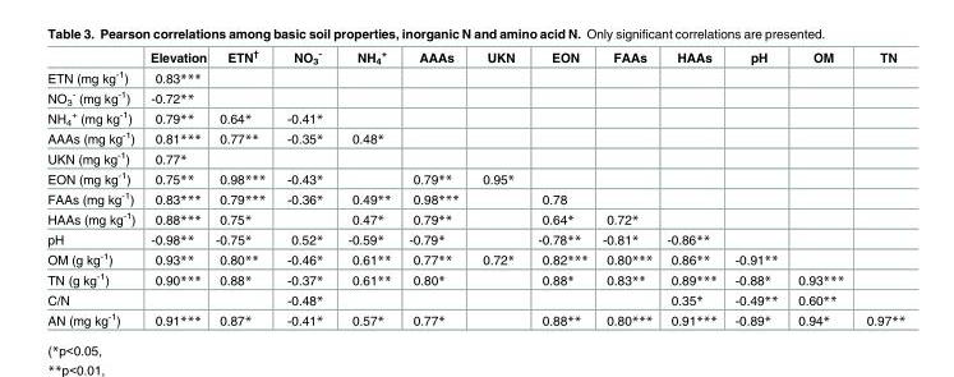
<table><thead><tr><td></td><td>Elevation</td><td>ETN<sup>†</sup></td><td>NO<sub>3</sub> <sup>-</sup></td><td>NH<sub>4</sub> <sup>+</sup></td><td>AAAs</td><td>UKN</td><td>EON</td><td>FAAs</td><td>HAAs</td><td>pH</td><td>OM</td><td>TN</td></tr></thead><tbody><tr><td>ETN (mg kg<sup>-1</sup>)</td><td>0.83***</td><td></td><td></td><td></td><td></td><td></td><td></td><td></td><td></td><td></td><td></td><td></td></tr><tr><td>NO<sub>3</sub> <sup>-</sup> (mg kg<sup>-1</sup>)</td><td>-0.72**</td><td></td><td></td><td></td><td></td><td></td><td></td><td></td><td></td><td></td><td></td><td></td></tr><tr><td>NH<sub>4</sub> <sup>+</sup> (mg kg<sup>-1</sup>)</td><td>0.79**</td><td>0.64*</td><td>-0.41*</td><td></td><td></td><td></td><td></td><td></td><td></td><td></td><td></td><td></td></tr><tr><td>AAAs (mg kg<sup>-1</sup>)</td><td>0.81***</td><td>0.77**</td><td>-0.35*</td><td>0.48*</td><td></td><td></td><td></td><td></td><td></td><td></td><td></td><td></td></tr><tr><td>UKN (mg kg<sup>-1</sup>)</td><td>0.77*</td><td></td><td></td><td></td><td></td><td></td><td></td><td></td><td></td><td></td><td></td><td></td></tr><tr><td>EON (mg kg<sup>-1</sup>)</td><td>0.75**</td><td>0.98***</td><td>-0.43*</td><td></td><td>0.79**</td><td>0.95*</td><td></td><td></td><td></td><td></td><td></td><td></td></tr><tr><td>FAAs (mg kg<sup>-1</sup>)</td><td>0.83***</td><td>0.79***</td><td>-0.36*</td><td>0.49**</td><td>0.98***</td><td></td><td>0.78</td><td></td><td></td><td></td><td></td><td></td></tr><tr><td>HAAs (mg kg<sup>-1</sup>)</td><td>0.88***</td><td>0.75*</td><td></td><td>0.47*</td><td>0.79**</td><td></td><td>0.64*</td><td>0.72*</td><td></td><td></td><td></td><td></td></tr><tr><td>pH</td><td>-0.98**</td><td>-0.75*</td><td>0.52*</td><td>-0.59*</td><td>-0.79*</td><td></td><td>-0.78**</td><td>-0.81*</td><td>-0.86**</td><td></td><td></td><td></td></tr><tr><td>OM (g kg<sup>-1</sup>)</td><td>0.93**</td><td>0.80**</td><td>-0.46*</td><td>0.61**</td><td>0.77**</td><td>0.72*</td><td>0.82***</td><td>0.80***</td><td>0.86**</td><td>-0.91**</td><td></td><td></td></tr><tr><td>TN (g kg<sup>-1</sup>)</td><td>0.90***</td><td>0.88*</td><td>-0.37*</td><td>0.61**</td><td>0.80*</td><td></td><td>0.88*</td><td>0.83**</td><td>0.89***</td><td>-0.88*</td><td>0.93***</td><td></td></tr><tr><td>C/N</td><td></td><td></td><td>-0.48*</td><td></td><td></td><td></td><td></td><td></td><td>0.35*</td><td>-0.49**</td><td>0.60**</td><td></td></tr><tr><td>AN (mg kg<sup>-1</sup>)</td><td>0.91***</td><td>0.87*</td><td>-0.41*</td><td>0.57*</td><td>0.77*</td><td></td><td>0.88**</td><td>0.80***</td><td>0.91***</td><td>-0.89*</td><td>0.94*</td><td>0.97**</td></tr></tbody></table>